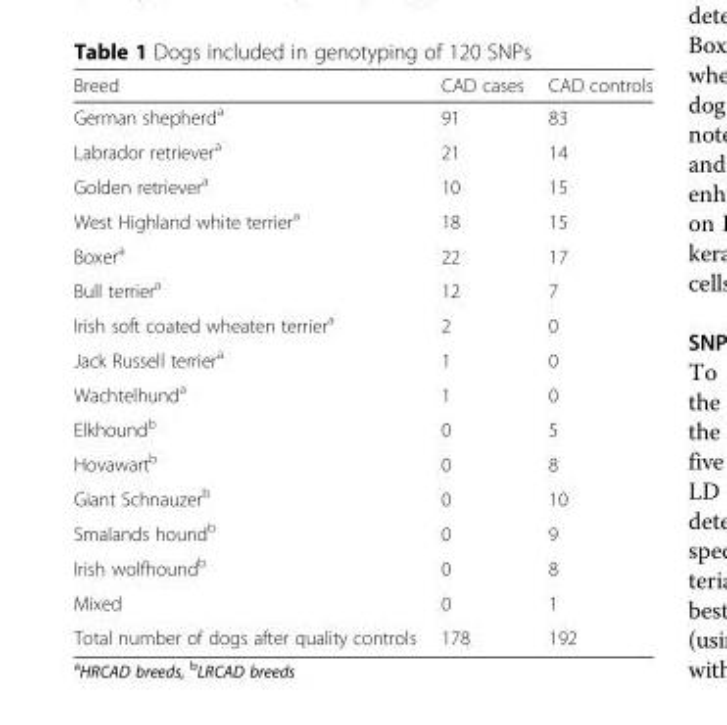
<table><thead><tr><td>Breed</td><td>CAD cases</td><td>CAD controls</td></tr></thead><tbody><tr><td>German shepherd<sup>a</sup></td><td>91</td><td>83</td></tr><tr><td>Labrador retriever<sup>a</sup></td><td>21</td><td>14</td></tr><tr><td>Golden retriever<sup>a</sup></td><td>10</td><td>15</td></tr><tr><td>West Highland white terrier<sup>a</sup></td><td>18</td><td>15</td></tr><tr><td>Boxer<sup>a</sup></td><td>22</td><td>17</td></tr><tr><td>Bull terrier<sup>a</sup></td><td>12</td><td>7</td></tr><tr><td>Irish soft coated wheaten terrier<sup>a</sup></td><td>2</td><td>0</td></tr><tr><td>Jack Russell terrier<sup>a</sup></td><td>1</td><td>0</td></tr><tr><td>Wachtelhund<sup>a</sup></td><td>1</td><td>0</td></tr><tr><td>Elkhound<sup>b</sup></td><td>0</td><td>5</td></tr><tr><td>Hovawart<sup>b</sup></td><td>0</td><td>8</td></tr><tr><td>Giant Schnauzer<sup>b</sup></td><td>0</td><td>10</td></tr><tr><td>Smalands hound<sup>b</sup></td><td>0</td><td>9</td></tr><tr><td>Irish wolfhound<sup>b</sup></td><td>0</td><td>8</td></tr><tr><td>Mixed</td><td>0</td><td>1</td></tr><tr><td>Total number of dogs after quality controls</td><td>178</td><td>192</td></tr></tbody></table>